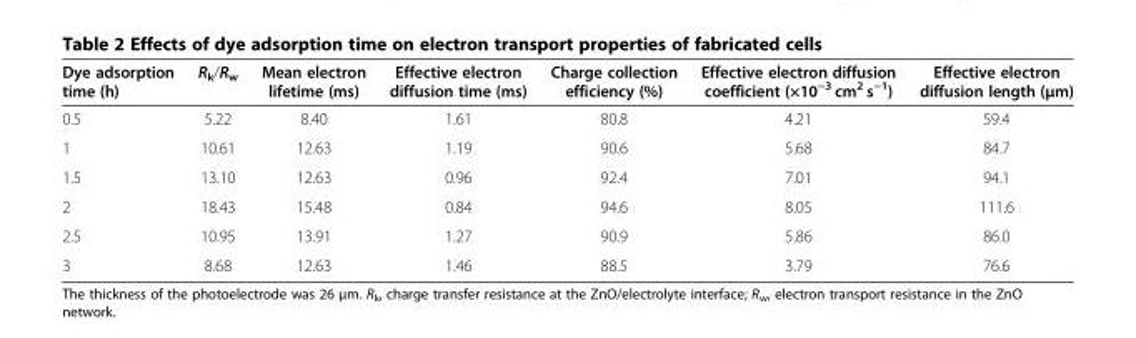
<table><thead><tr><td>Dye adsorption time (h)</td><td>R<sub>k</sub>/R<sub>w</sub></td><td>Mean electron lifetime (ms)</td><td>Effective electron diffusion time (ms)</td><td>Charge collection efficiency (%)</td><td>Effective electron diffusion coefficient (×10<sup>−3</sup> cm<sup>2</sup> s<sup>−1</sup>)</td><td>Effective electron diffusion length (μm)</td></tr></thead><tbody><tr><td>0.5</td><td>5.22</td><td>8.40</td><td>1.61</td><td>80.8</td><td>4.21</td><td>59.4</td></tr><tr><td>1</td><td>10.61</td><td>12.63</td><td>1.19</td><td>90.6</td><td>5.68</td><td>84.7</td></tr><tr><td>1.5</td><td>13.10</td><td>12.63</td><td>0.96</td><td>92.4</td><td>7.01</td><td>94.1</td></tr><tr><td>2</td><td>18.43</td><td>15.48</td><td>0.84</td><td>94.6</td><td>8.05</td><td>111.6</td></tr><tr><td>2.5</td><td>10.95</td><td>13.91</td><td>1.27</td><td>90.9</td><td>5.86</td><td>86.0</td></tr><tr><td>3</td><td>8.68</td><td>12.63</td><td>1.46</td><td>88.5</td><td>3.79</td><td>76.6</td></tr></tbody></table>